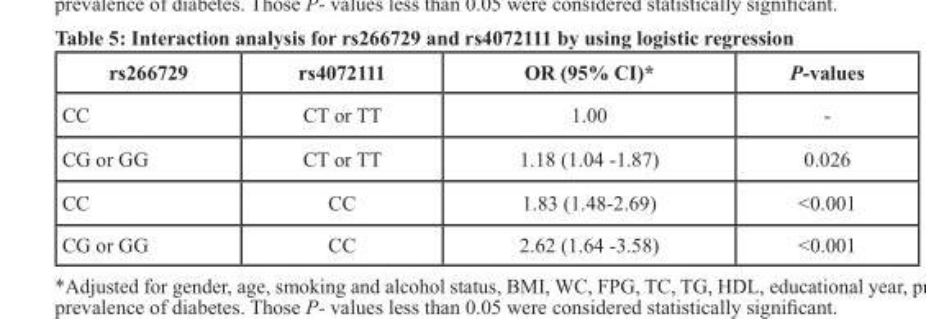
<table><thead><tr><td>rs266729</td><td>rs4072111</td><td>OR (95% CI)*</td><td>P-values</td></tr></thead><tbody><tr><td>CC</td><td>CT or TT</td><td>1.00</td><td>-</td></tr><tr><td>CG or GG</td><td>CT or TT</td><td>1.18 (1.04 -1.87)</td><td>0.026</td></tr><tr><td>CC</td><td>CC</td><td>1.83 (1.48-2.69)</td><td>&lt;0.001</td></tr><tr><td>CG or GG</td><td>CC</td><td>2.62 (1.64 -3.58)</td><td>&lt;0.001</td></tr></tbody></table>